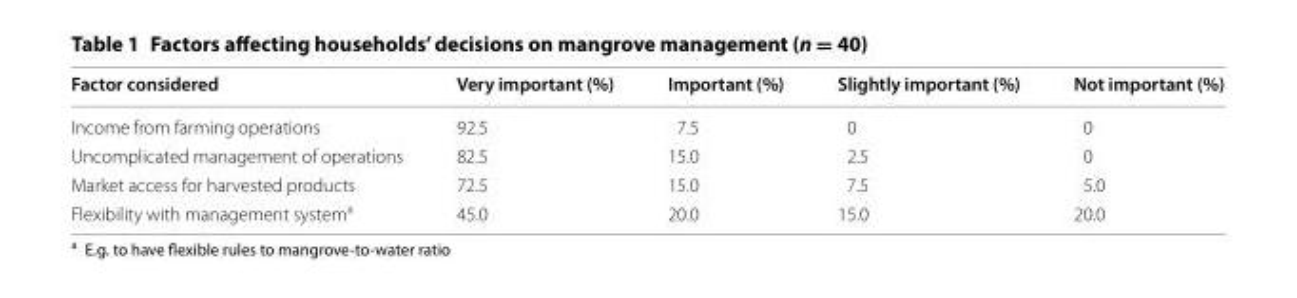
<table><thead><tr><td>Factor considered</td><td>Very important (%)</td><td>Important (%)</td><td>Slightly important (%)</td><td>Not important (%)</td></tr></thead><tbody><tr><td>Income from farming operations</td><td>92.5</td><td>7.5</td><td>0</td><td>0</td></tr><tr><td>Uncomplicated management of operations</td><td>82.5</td><td>15.0</td><td>2.5</td><td>0</td></tr><tr><td>Market access for harvested products</td><td>72.5</td><td>15.0</td><td>7.5</td><td>5.0</td></tr><tr><td>Flexibility with management system<sup>a</sup></td><td>45.0</td><td>20.0</td><td>15.0</td><td>20.0</td></tr></tbody></table>